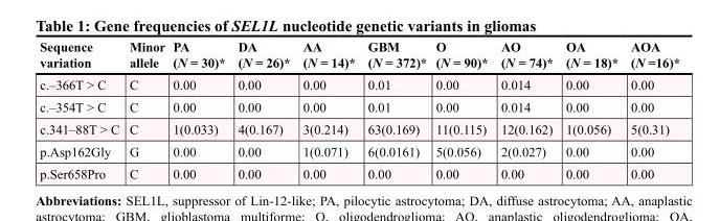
<table><thead><tr><td>Sequence variation</td><td>Minor allele</td><td>PA (N = 30)*</td><td>DA (N = 26)*</td><td>AA (N = 14)*</td><td>GBM (N = 372)*</td><td>O (N = 90)*</td><td>AO (N = 74)*</td><td>OA (N = 18)*</td><td>AOA (N =16)*</td></tr></thead><tbody><tr><td>c.–366T &gt; C</td><td>C</td><td>0.00</td><td>0.00</td><td>0.00</td><td>0.01</td><td>0.00</td><td>0.014</td><td>0.00</td><td>0.00</td></tr><tr><td>c.–354T &gt; C</td><td>C</td><td>0.00</td><td>0.00</td><td>0.00</td><td>0.01</td><td>0.00</td><td>0.014</td><td>0.00</td><td>0.00</td></tr><tr><td>c.341–88T &gt; C</td><td>C</td><td>1(0.033)</td><td>4(0.167)</td><td>3(0.214)</td><td>63(0.169)</td><td>11(0.115)</td><td>12(0.162)</td><td>1(0.056)</td><td>5(0.31)</td></tr><tr><td>p.Asp162Gly</td><td>G</td><td>0.00</td><td>0.00</td><td>1(0.071)</td><td>6(0.0161)</td><td>5(0.056)</td><td>2(0.027)</td><td>0.00</td><td>0.00</td></tr><tr><td>p.Ser658Pro</td><td>C</td><td>0.00</td><td>0.00</td><td>0.00</td><td>0.00</td><td>0.00</td><td>0.00</td><td>0.00</td><td>0.00</td></tr></tbody></table>